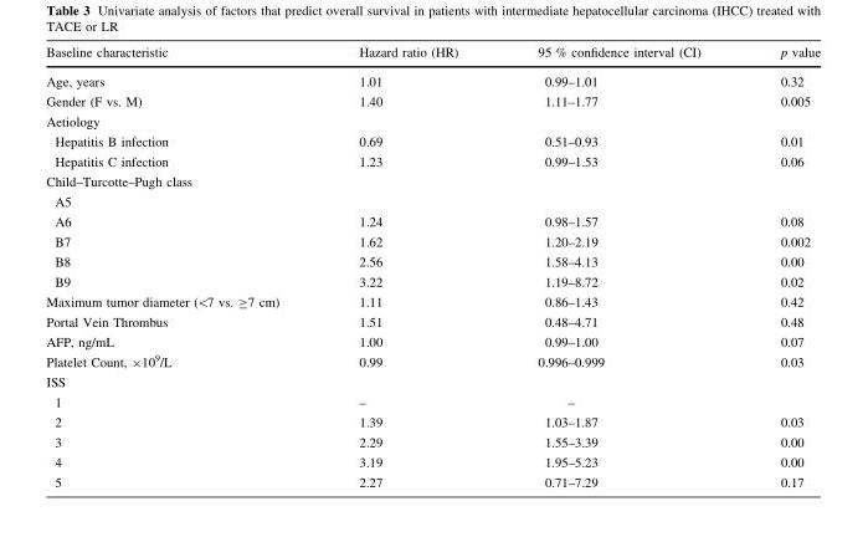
<table><thead><tr><td>Baseline characteristic</td><td>Hazard ratio (HR)</td><td>95 % confidence interval (CI)</td><td>p value</td></tr></thead><tbody><tr><td>Age, years</td><td>1.01</td><td>0.99–1.01</td><td>0.32</td></tr><tr><td>Gender (F vs. M)</td><td>1.40</td><td>1.11–1.77</td><td>0.005</td></tr><tr><td colspan="4">Aetiology</td></tr><tr><td>Hepatitis B infection</td><td>0.69</td><td>0.51–0.93</td><td>0.01</td></tr><tr><td>Hepatitis C infection</td><td>1.23</td><td>0.99–1.53</td><td>0.06</td></tr><tr><td colspan="4">Child–Turcotte–Pugh class</td></tr><tr><td colspan="4">A5</td></tr><tr><td>A6</td><td>1.24</td><td>0.98–1.57</td><td>0.08</td></tr><tr><td>B7</td><td>1.62</td><td>1.20–2.19</td><td>0.002</td></tr><tr><td>B8</td><td>2.56</td><td>1.58–4.13</td><td>0.00</td></tr><tr><td>B9</td><td>3.22</td><td>1.19–8.72</td><td>0.02</td></tr><tr><td>Maximum tumor diameter (&lt;7 vs. ≥7 cm)</td><td>1.11</td><td>0.86–1.43</td><td>0.42</td></tr><tr><td>Portal Vein Thrombus</td><td>1.51</td><td>0.48–4.71</td><td>0.48</td></tr><tr><td>AFP, ng/mL</td><td>1.00</td><td>0.99–1.00</td><td>0.07</td></tr><tr><td>Platelet Count, ×10<sup>9</sup>/L</td><td>0.99</td><td>0.996–0.999</td><td>0.03</td></tr><tr><td colspan="4">ISS</td></tr><tr><td>1</td><td>–</td><td>–</td><td></td></tr><tr><td>2</td><td>1.39</td><td>1.03–1.87</td><td>0.03</td></tr><tr><td>3</td><td>2.29</td><td>1.55–3.39</td><td>0.00</td></tr><tr><td>4</td><td>3.19</td><td>1.95–5.23</td><td>0.00</td></tr><tr><td>5</td><td>2.27</td><td>0.71–7.29</td><td>0.17</td></tr></tbody></table>